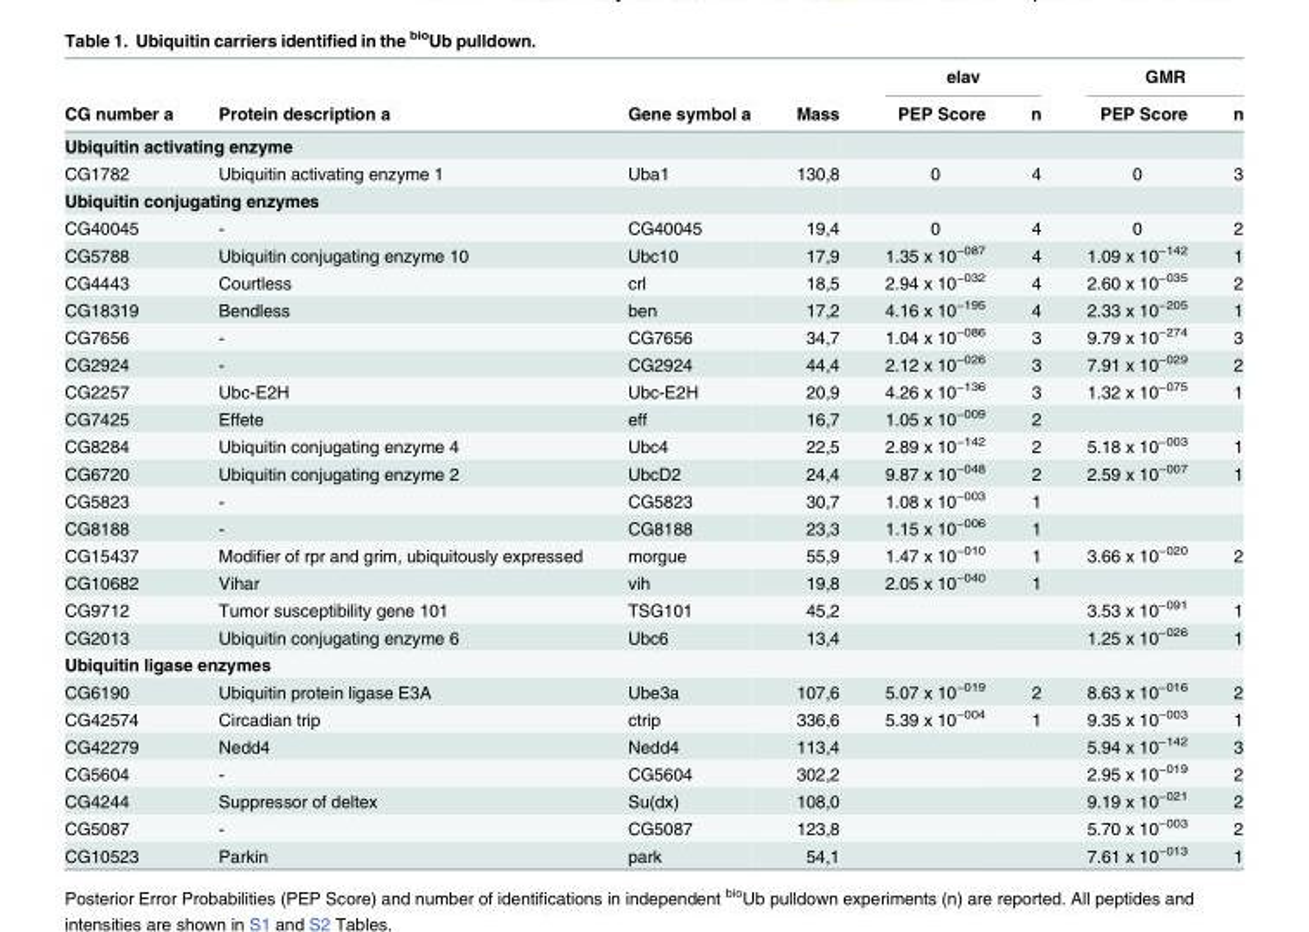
<table><thead><tr><td rowspan="2">CG number a</td><td rowspan="2">Protein description a</td><td rowspan="2">Gene symbol a</td><td rowspan="2">Mass</td><td colspan="2">elav</td><td colspan="2">GMR</td></tr><tr><td>PEP Score</td><td>n</td><td>PEP Score</td><td>n</td></tr></thead><tbody><tr><td colspan="8">Ubiquitin activating enzyme</td></tr><tr><td>CG1782</td><td>Ubiquitin activating enzyme 1</td><td>Uba1</td><td>130,8</td><td>0</td><td>4</td><td>0</td><td>3</td></tr><tr><td colspan="8">Ubiquitin conjugating enzymes</td></tr><tr><td>CG40045</td><td>-</td><td>CG40045</td><td>19,4</td><td>0</td><td>4</td><td>0</td><td>2</td></tr><tr><td>CG5788</td><td>Ubiquitin conjugating enzyme 10</td><td>Ubc10</td><td>17,9</td><td>1.35 x 10<sup>−087</sup></td><td>4</td><td>1.09 x 10<sup>−142</sup></td><td>1</td></tr><tr><td>CG4443</td><td>Courtless</td><td>crl</td><td>18,5</td><td>2.94 x 10<sup>−032</sup></td><td>4</td><td>2.60 x 10<sup>−035</sup></td><td>2</td></tr><tr><td>CG18319</td><td>Bendless</td><td>ben</td><td>17,2</td><td>4.16 x 10<sup>−195</sup></td><td>4</td><td>2.33 x 10<sup>−205</sup></td><td>1</td></tr><tr><td>CG7656</td><td>-</td><td>CG7656</td><td>34,7</td><td>1.04 x 10<sup>−086</sup></td><td>3</td><td>9.79 x 10<sup>−274</sup></td><td>3</td></tr><tr><td>CG2924</td><td>-</td><td>CG2924</td><td>44,4</td><td>2.12 x 10<sup>−026</sup></td><td>3</td><td>7.91 x 10<sup>−029</sup></td><td>2</td></tr><tr><td>CG2257</td><td>Ubc-E2H</td><td>Ubc-E2H</td><td>20,9</td><td>4.26 x 10<sup>−136</sup></td><td>3</td><td>1.32 x 10<sup>−075</sup></td><td>1</td></tr><tr><td>CG7425</td><td>Effete</td><td>eff</td><td>16,7</td><td>1.05 x 10<sup>−009</sup></td><td>2</td><td></td><td></td></tr><tr><td>CG8284</td><td>Ubiquitin conjugating enzyme 4</td><td>Ubc4</td><td>22,5</td><td>2.89 x 10<sup>−142</sup></td><td>2</td><td>5.18 x 10<sup>−003</sup></td><td>1</td></tr><tr><td>CG6720</td><td>Ubiquitin conjugating enzyme 2</td><td>UbcD2</td><td>24,4</td><td>9.87 x 10<sup>−048</sup></td><td>2</td><td>2.59 x 10<sup>−007</sup></td><td>1</td></tr><tr><td>CG5823</td><td>-</td><td>CG5823</td><td>30,7</td><td>1.08 x 10<sup>−003</sup></td><td>1</td><td></td><td></td></tr><tr><td>CG8188</td><td>-</td><td>CG8188</td><td>23,3</td><td>1.15 x 10<sup>−006</sup></td><td>1</td><td></td><td></td></tr><tr><td>CG15437</td><td>Modifier of rpr and grim, ubiquitously expressed</td><td>morgue</td><td>55,9</td><td>1.47 x 10<sup>−010</sup></td><td>1</td><td>3.66 x 10<sup>−020</sup></td><td>2</td></tr><tr><td>CG10682</td><td>Vihar</td><td>vih</td><td>19,8</td><td>2.05 x 10<sup>−040</sup></td><td>1</td><td></td><td></td></tr><tr><td>CG9712</td><td>Tumor susceptibility gene 101</td><td>TSG101</td><td>45,2</td><td></td><td></td><td>3.53 x 10<sup>−091</sup></td><td>1</td></tr><tr><td>CG2013</td><td>Ubiquitin conjugating enzyme 6</td><td>Ubc6</td><td>13,4</td><td></td><td></td><td>1.25 x 10<sup>−026</sup></td><td>1</td></tr><tr><td colspan="8">Ubiquitin ligase enzymes</td></tr><tr><td>CG6190</td><td>Ubiquitin protein ligase E3A</td><td>Ube3a</td><td>107,6</td><td>5.07 x 10<sup>−019</sup></td><td>2</td><td>8.63 x 10<sup>−016</sup></td><td>2</td></tr><tr><td>CG42574</td><td>Circadian trip</td><td>ctrip</td><td>336,6</td><td>5.39 x 10<sup>−004</sup></td><td>1</td><td>9.35 x 10<sup>−003</sup></td><td>1</td></tr><tr><td>CG42279</td><td>Nedd4</td><td>Nedd4</td><td>113,4</td><td></td><td></td><td>5.94 x 10<sup>−142</sup></td><td>3</td></tr><tr><td>CG5604</td><td>-</td><td>CG5604</td><td>302,2</td><td></td><td></td><td>2.95 x 10<sup>−019</sup></td><td>2</td></tr><tr><td>CG4244</td><td>Suppressor of deltex</td><td>Su(dx)</td><td>108,0</td><td></td><td></td><td>9.19 x 10<sup>−021</sup></td><td>2</td></tr><tr><td>CG5087</td><td>-</td><td>CG5087</td><td>123,8</td><td></td><td></td><td>5.70 x 10<sup>−003</sup></td><td>2</td></tr><tr><td>CG10523</td><td>Parkin</td><td>park</td><td>54,1</td><td></td><td></td><td>7.61 x 10<sup>−013</sup></td><td>1</td></tr></tbody></table>